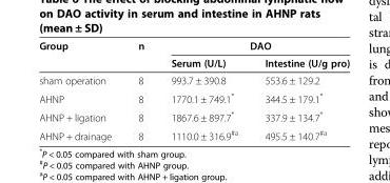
<table><thead><tr><td rowspan="2">Group</td><td rowspan="2">n</td><td colspan="2">DAO</td></tr><tr><td>Serum (U/L)</td><td>Intestine (U/g pro)</td></tr></thead><tbody><tr><td>sham operation</td><td>8</td><td>993.7 ± 390.8</td><td>553.6 ± 129.2</td></tr><tr><td>AHNP</td><td>8</td><td>1770.1 ± 749.1*</td><td>344.5 ± 179.1*</td></tr><tr><td>AHNP + ligation</td><td>8</td><td>1867.6 ± 897.7*</td><td>337.9 ± 134.7*</td></tr><tr><td>AHNP + drainage</td><td>8</td><td>1110.0 ± 316.9<sup>#a</sup></td><td>495.5 ± 140.7<sup>#a</sup></td></tr></tbody></table>